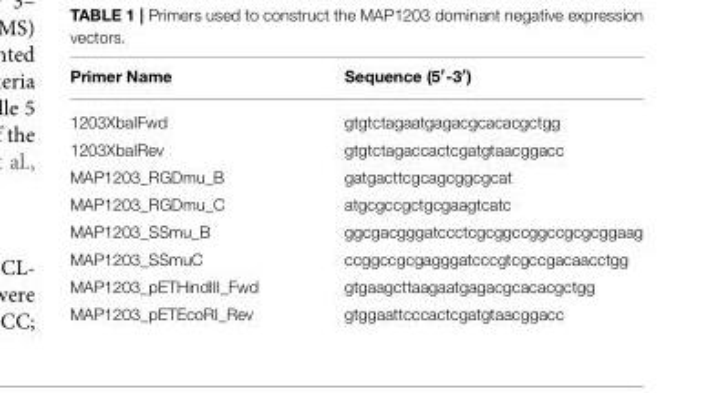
<table><thead><tr><td>Primer Name</td><td>Sequence (5′-3′)</td></tr></thead><tbody><tr><td>1203XbaIFwd</td><td>gtgtctagaatgagacgcacacgctgg</td></tr><tr><td>1203XbaIRev</td><td>gtgtctagaccactcgatgtaacggacc</td></tr><tr><td>MAP1203_RGDmu_B</td><td>gatgacttcgcagcggcgcat</td></tr><tr><td>MAP1203_RGDmu_C</td><td>atgcgccgctgcgaagtcatc</td></tr><tr><td>MAP1203_SSmu_B</td><td>ggcgacgggatccctcgcggccggccgcgcggaag</td></tr><tr><td>MAP1203_SSmuC</td><td>ccggccgcgagggatcccgtcgccgacaacctgg</td></tr><tr><td>MAP1203_pETHindIII_Fwd</td><td>gtgaagcttaagaatgagacgcacacgctgg</td></tr><tr><td>MAP1203_pETEcoRI_Rev</td><td>gtggaattcccactcgatgtaacggacc</td></tr></tbody></table>